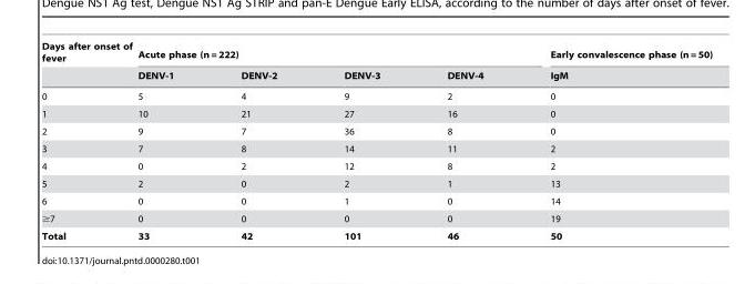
<table><thead><tr><td rowspan="2">Days after onset of fever</td><td colspan="4">Acute phase (n = 222)</td><td rowspan="2">Early convalescence phase (n = 50) IgM</td></tr><tr><td>DENV-1</td><td>DENV-2</td><td>DENV-3</td><td>DENV-4</td></tr></thead><tbody><tr><td>0</td><td>5</td><td>4</td><td>9</td><td>2</td><td>0</td></tr><tr><td>1</td><td>10</td><td>21</td><td>27</td><td>16</td><td>0</td></tr><tr><td>2</td><td>9</td><td>7</td><td>36</td><td>8</td><td>0</td></tr><tr><td>3</td><td>7</td><td>8</td><td>14</td><td>11</td><td>2</td></tr><tr><td>4</td><td>0</td><td>2</td><td>12</td><td>8</td><td>2</td></tr><tr><td>5</td><td>2</td><td>0</td><td>2</td><td>1</td><td>13</td></tr><tr><td>6</td><td>0</td><td>0</td><td>1</td><td>0</td><td>14</td></tr><tr><td>≥7</td><td>0</td><td>0</td><td>0</td><td>0</td><td>19</td></tr><tr><td>Total</td><td>33</td><td>42</td><td>101</td><td>46</td><td>50</td></tr></tbody></table>